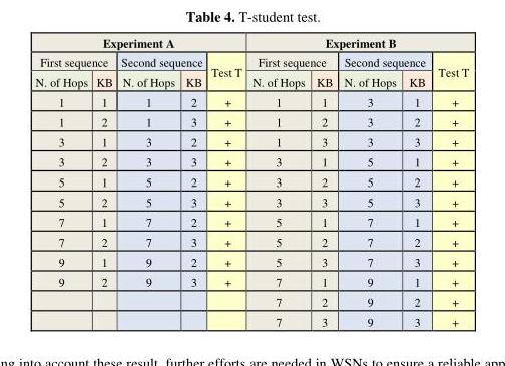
<table><thead><tr><td colspan="5">Experiment A</td><td colspan="5">Experiment B</td></tr><tr><td colspan="2">First sequence</td><td colspan="2">Second sequence</td><td rowspan="2">Test T</td><td colspan="2">First sequence</td><td colspan="2">Second sequence</td><td rowspan="2">Test T</td></tr><tr><td>N. of Hops</td><td>KB</td><td>N. of Hops</td><td>KB</td><td>N. of Hops</td><td>KB</td><td>N. of Hops</td><td>KB</td></tr></thead><tbody><tr><td>1</td><td>1</td><td>1</td><td>2</td><td>+</td><td>1</td><td>1</td><td>3</td><td>1</td><td>+</td></tr><tr><td>1</td><td>2</td><td>1</td><td>3</td><td>+</td><td>1</td><td>2</td><td>3</td><td>2</td><td>+</td></tr><tr><td>3</td><td>1</td><td>3</td><td>2</td><td>+</td><td>1</td><td>3</td><td>3</td><td>3</td><td>+</td></tr><tr><td>3</td><td>2</td><td>3</td><td>3</td><td>+</td><td>3</td><td>1</td><td>5</td><td>1</td><td>+</td></tr><tr><td>5</td><td>1</td><td>5</td><td>2</td><td>+</td><td>3</td><td>2</td><td>5</td><td>2</td><td>+</td></tr><tr><td>5</td><td>2</td><td>5</td><td>3</td><td>+</td><td>3</td><td>3</td><td>5</td><td>3</td><td>+</td></tr><tr><td>7</td><td>1</td><td>7</td><td>2</td><td>+</td><td>5</td><td>1</td><td>7</td><td>1</td><td>+</td></tr><tr><td>7</td><td>2</td><td>7</td><td>3</td><td>+</td><td>5</td><td>2</td><td>7</td><td>2</td><td>+</td></tr><tr><td>9</td><td>1</td><td>9</td><td>2</td><td>+</td><td>5</td><td>3</td><td>7</td><td>3</td><td>+</td></tr><tr><td rowspan="3">9</td><td>2</td><td>9</td><td>3</td><td>+</td><td>7</td><td>1</td><td>9</td><td>1</td><td>+</td></tr><tr><td></td><td></td><td></td><td></td><td>7</td><td>2</td><td>9</td><td>2</td><td>+</td></tr><tr><td></td><td></td><td></td><td></td><td>7</td><td>3</td><td>9</td><td>3</td><td>+</td></tr></tbody></table>